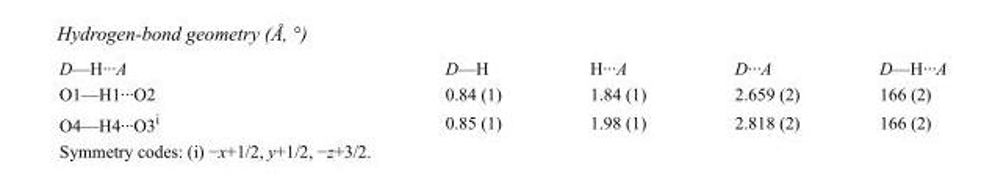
<table><tbody><tr><td>D—H···A</td><td>D—H</td><td>H···A</td><td>D···A</td><td>D—H···A</td></tr><tr><td>O1—H1···O2</td><td>0.84 (1)</td><td>1.84 (1)</td><td>2.659 (2)</td><td>166 (2)</td></tr><tr><td>O4—H4···O3<sup>i</sup></td><td>0.85 (1)</td><td>1.98 (1)</td><td>2.818 (2)</td><td>166 (2)</td></tr></tbody></table>